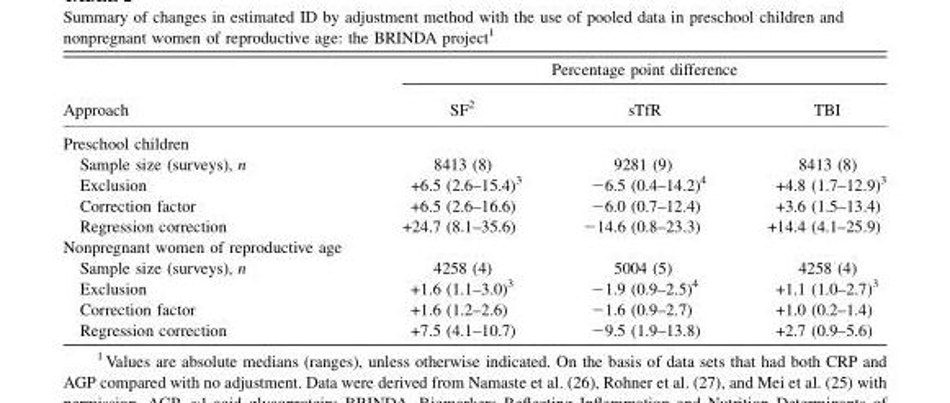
<table><thead><tr><td rowspan="2">Approach</td><td colspan="3">Percentage point difference</td></tr><tr><td>SF<sup>2</sup></td><td>sTfR</td><td>TBI</td></tr></thead><tbody><tr><td colspan="4">Preschool children</td></tr><tr><td>Sample size (surveys), n</td><td>8413 (8)</td><td>9281 (9)</td><td>8413 (8)</td></tr><tr><td>Exclusion</td><td>+6.5 (2.6–15.4)<sup>3</sup></td><td>−6.5 (0.4–14.2)<sup>4</sup></td><td>+4.8 (1.7–12.9)<sup>3</sup></td></tr><tr><td>Correction factor</td><td>+6.5 (2.6–16.6)</td><td>−6.0 (0.7–12.4)</td><td>+3.6 (1.5–13.4)</td></tr><tr><td>Regression correction</td><td>+24.7 (8.1–35.6)</td><td>−14.6 (0.8–23.3)</td><td>+14.4 (4.1–25.9)</td></tr><tr><td colspan="4">Nonpregnant women of reproductive age</td></tr><tr><td>Sample size (surveys), n</td><td>4258 (4)</td><td>5004 (5)</td><td>4258 (4)</td></tr><tr><td>Exclusion</td><td>+1.6 (1.1–3.0)<sup>3</sup></td><td>−1.9 (0.9–2.5)<sup>4</sup></td><td>+1.1 (1.0–2.7)<sup>3</sup></td></tr><tr><td>Correction factor</td><td>+1.6 (1.2–2.6)</td><td>−1.6 (0.9–2.7)</td><td>+1.0 (0.2–1.4)</td></tr><tr><td>Regression correction</td><td>+7.5 (4.1–10.7)</td><td>−9.5 (1.9–13.8)</td><td>+2.7 (0.9–5.6)</td></tr></tbody></table>